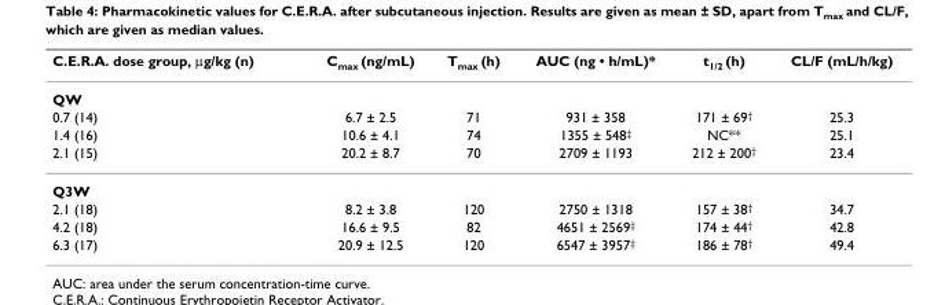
<table><thead><tr><td>C.E.R.A. dose group, μg/kg (n)</td><td>C<sub>max</sub> (ng/mL)</td><td>T<sub>max</sub> (h)</td><td>AUC (ng • h/mL)*</td><td>t<sub>1/2</sub> (h)</td><td>CL/F (mL/h/kg)</td></tr></thead><tbody><tr><td colspan="6">QW</td></tr><tr><td>0.7 (14)</td><td>6.7 ± 2.5</td><td>71</td><td>931 ± 358</td><td>171 ± 69<sup>†</sup></td><td>25.3</td></tr><tr><td>1.4 (16)</td><td>10.6 ± 4.1</td><td>74</td><td>1355 ± 548<sup>‡</sup></td><td>NC**</td><td>25.1</td></tr><tr><td>2.1 (15)</td><td>20.2 ± 8.7</td><td>70</td><td>2709 ± 1193</td><td>212 ± 200<sup>†</sup></td><td>23.4</td></tr><tr><td colspan="6">Q3W</td></tr><tr><td>2.1 (18)</td><td>8.2 ± 3.8</td><td>120</td><td>2750 ± 1318</td><td>157 ± 38<sup>†</sup></td><td>34.7</td></tr><tr><td>4.2 (18)</td><td>16.6 ± 9.5</td><td>82</td><td>4651 ± 2569<sup>‡</sup></td><td>174 ± 44<sup>†</sup></td><td>42.8</td></tr><tr><td>6.3 (17)</td><td>20.9 ± 12.5</td><td>120</td><td>6547 ± 3957<sup>‡</sup></td><td>186 ± 78<sup>†</sup></td><td>49.4</td></tr></tbody></table>